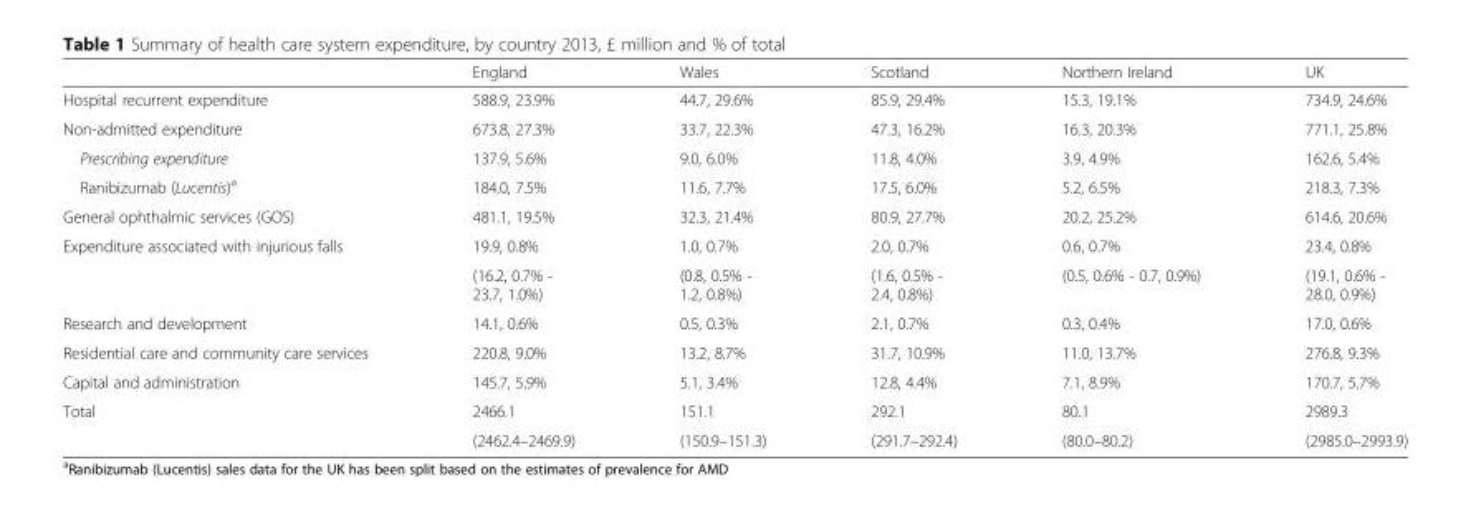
<table><thead><tr><td></td><td>England</td><td>Wales</td><td>Scotland</td><td>Northern Ireland</td><td>UK</td></tr></thead><tbody><tr><td>Hospital recurrent expenditure</td><td>588.9, 23.9%</td><td>44.7, 29.6%</td><td>85.9, 29.4%</td><td>15.3, 19.1%</td><td>734.9, 24.6%</td></tr><tr><td>Non-admitted expenditure</td><td>673.8, 27.3%</td><td>33.7, 22.3%</td><td>47.3, 16.2%</td><td>16.3, 20.3%</td><td>771.1, 25.8%</td></tr><tr><td>Prescribing expenditure</td><td>137.9, 5.6%</td><td>9.0, 6.0%</td><td>11.8, 4.0%</td><td>3.9, 4.9%</td><td>162.6, 5.4%</td></tr><tr><td>Ranibizumab (Lucentis)<sup>a</sup></td><td>184.0, 7.5%</td><td>11.6, 7.7%</td><td>17.5, 6.0%</td><td>5.2, 6.5%</td><td>218.3, 7.3%</td></tr><tr><td>General ophthalmic services (GOS)</td><td>481.1, 19.5%</td><td>32.3, 21.4%</td><td>80.9, 27.7%</td><td>20.2, 25.2%</td><td>614.6, 20.6%</td></tr><tr><td rowspan="2">Expenditure associated with injurious falls</td><td>19.9, 0.8%</td><td>1.0, 0.7%</td><td>2.0, 0.7%</td><td>0.6, 0.7%</td><td>23.4, 0.8%</td></tr><tr><td>(16.2, 0.7% - 23.7, 1.0%)</td><td>(0.8, 0.5% - 1.2, 0.8%)</td><td>(1.6, 0.5% - 2.4, 0.8%)</td><td>(0.5, 0.6% - 0.7, 0.9%)</td><td>(19.1, 0.6% - 28.0, 0.9%)</td></tr><tr><td>Research and development</td><td>14.1, 0.6%</td><td>0.5, 0.3%</td><td>2.1, 0.7%</td><td>0.3, 0.4%</td><td>17.0, 0.6%</td></tr><tr><td>Residential care and community care services</td><td>220.8, 9.0%</td><td>13.2, 8.7%</td><td>31.7, 10.9%</td><td>11.0, 13.7%</td><td>276.8, 9.3%</td></tr><tr><td>Capital and administration</td><td>145.7, 5.9%</td><td>5.1, 3.4%</td><td>12.8, 4.4%</td><td>7.1, 8.9%</td><td>170.7, 5.7%</td></tr><tr><td rowspan="2">Total</td><td>2466.1</td><td>151.1</td><td>292.1</td><td>80.1</td><td>2989.3</td></tr><tr><td>(2462.4–2469.9)</td><td>(150.9–151.3)</td><td>(291.7–292.4)</td><td>(80.0–80.2)</td><td>(2985.0–2993.9)</td></tr></tbody></table>